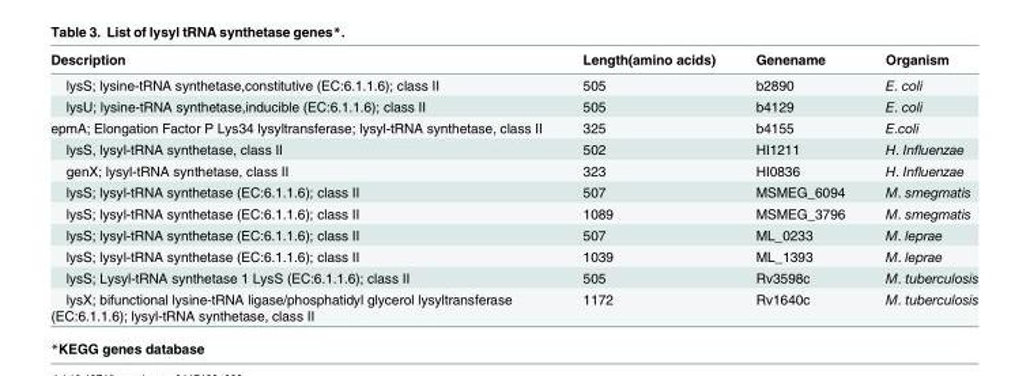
<table><thead><tr><td>Description</td><td>Length(amino acids)</td><td>Genename</td><td>Organism</td></tr></thead><tbody><tr><td>lysS; lysine-tRNA synthetase,constitutive (EC:6.1.1.6); class II</td><td>505</td><td>b2890</td><td>E. coli</td></tr><tr><td>lysU; lysine-tRNA synthetase,inducible (EC:6.1.1.6); class II</td><td>505</td><td>b4129</td><td>E. coli</td></tr><tr><td>epmA; Elongation Factor P Lys34 lysyltransferase; lysyl-tRNA synthetase, class II</td><td>325</td><td>b4155</td><td>E.coli</td></tr><tr><td>lysS, lysyl-tRNA synthetase, class II</td><td>502</td><td>HI1211</td><td>H. Influenzae</td></tr><tr><td>genX; lysyl-tRNA synthetase, class II</td><td>323</td><td>HI0836</td><td>H. Influenzae</td></tr><tr><td>lysS; lysyl-tRNA synthetase (EC:6.1.1.6); class II</td><td>507</td><td>MSMEG_6094</td><td>M. smegmatis</td></tr><tr><td>lysS; lysyl-tRNA synthetase (EC:6.1.1.6); class II</td><td>1089</td><td>MSMEG_3796</td><td>M. smegmatis</td></tr><tr><td>lysS; lysyl-tRNA synthetase (EC:6.1.1.6); class II</td><td>507</td><td>ML_0233</td><td>M. leprae</td></tr><tr><td>lysS; lysyl-tRNA synthetase (EC:6.1.1.6); class II</td><td>1039</td><td>ML_1393</td><td>M. leprae</td></tr><tr><td>lysS; Lysyl-tRNA synthetase 1 LysS (EC:6.1.1.6); class II</td><td>505</td><td>Rv3598c</td><td>M. tuberculosis</td></tr><tr><td>lysX; bifunctional lysine-tRNA ligase/phosphatidyl glycerol lysyltransferase (EC:6.1.1.6); lysyl-tRNA synthetase, class II</td><td>1172</td><td>Rv1640c</td><td>M. tuberculosis</td></tr></tbody></table>